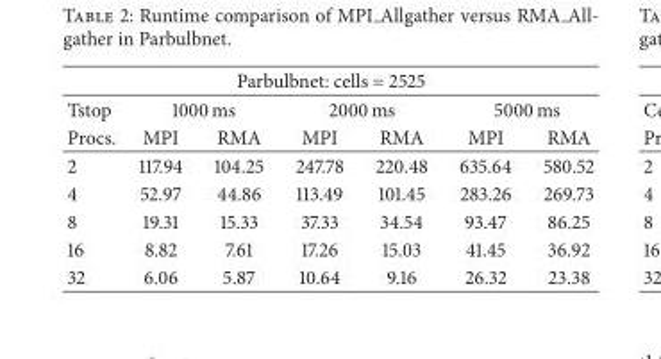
<table><thead><tr><td colspan="7">Parbulbnet: cells = 2525</td></tr><tr><td rowspan="2">Tstop Procs.</td><td colspan="2">1000 ms</td><td colspan="2">2000 ms</td><td colspan="2">5000 ms</td></tr><tr><td>MPI</td><td>RMA</td><td>MPI</td><td>RMA</td><td>MPI</td><td>RMA</td></tr></thead><tbody><tr><td>2</td><td>117.94</td><td>104.25</td><td>247.78</td><td>220.48</td><td>635.64</td><td>580.52</td></tr><tr><td>4</td><td>52.97</td><td>44.86</td><td>113.49</td><td>101.45</td><td>283.26</td><td>269.73</td></tr><tr><td>8</td><td>19.31</td><td>15.33</td><td>37.33</td><td>34.54</td><td>93.47</td><td>86.25</td></tr><tr><td>16</td><td>8.82</td><td>7.61</td><td>17.26</td><td>15.03</td><td>41.45</td><td>36.92</td></tr><tr><td>32</td><td>6.06</td><td>5.87</td><td>10.64</td><td>9.16</td><td>26.32</td><td>23.38</td></tr></tbody></table>